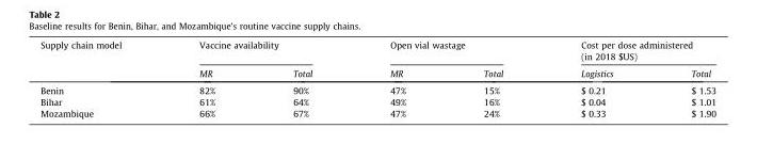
<table><thead><tr><td rowspan="2">Supply chain model</td><td colspan="2">Vaccine availability</td><td colspan="2">Open vial wastage</td><td colspan="2">Cost per dose administered (in 2018 $US)</td></tr><tr><td>MR</td><td>Total</td><td>MR</td><td>Total</td><td>Logistics</td><td>Total</td></tr></thead><tbody><tr><td>Benin</td><td>82%</td><td>90%</td><td>47%</td><td>15%</td><td>$ 0.21</td><td>$ 1.53</td></tr><tr><td>Bihar</td><td>61%</td><td>64%</td><td>49%</td><td>16%</td><td>$ 0.04</td><td>$ 1.01</td></tr><tr><td>Mozambique</td><td>66%</td><td>67%</td><td>47%</td><td>24%</td><td>$ 0.33</td><td>$ 1.90</td></tr></tbody></table>